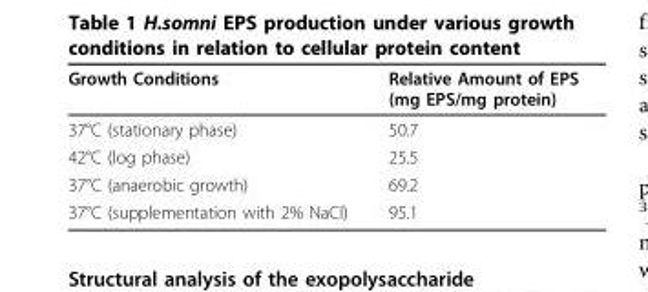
<table><thead><tr><td>Growth Conditions</td><td>Relative Amount of EPS (mg EPS/mg protein)</td></tr></thead><tbody><tr><td>37°C (stationary phase)</td><td>50.7</td></tr><tr><td>42°C (log phase)</td><td>25.5</td></tr><tr><td>37°C (anaerobic growth)</td><td>69.2</td></tr><tr><td>37°C (supplementation with 2% NaCl)</td><td>95.1</td></tr></tbody></table>